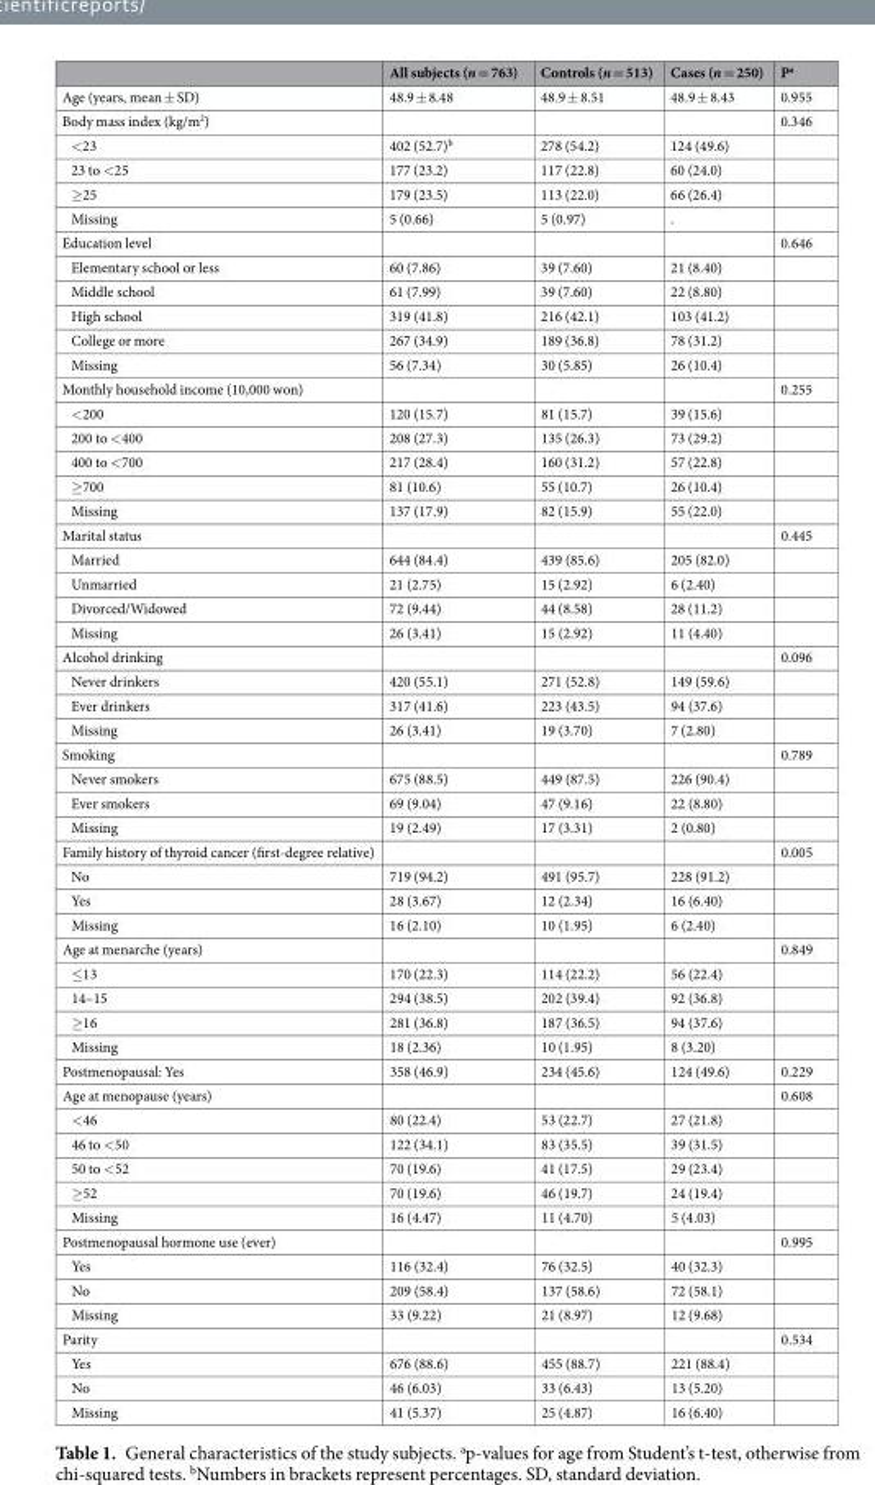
<table><thead><tr><td></td><td>All subjects (n = 763)</td><td>Controls (n = 513)</td><td>Cases (n = 250)</td><td>P<sup>a</sup></td></tr></thead><tbody><tr><td>Age (years, mean ± SD)</td><td>48.9 ± 8.48</td><td>48.9 ± 8.51</td><td>48.9 ± 8.43</td><td>0.955</td></tr><tr><td>Body mass index (kg/m<sup>2</sup>)</td><td></td><td></td><td></td><td>0.346</td></tr><tr><td>&lt;23</td><td>402 (52.7)<sup>b</sup></td><td>278 (54.2)</td><td>124 (49.6)</td><td></td></tr><tr><td>23 to &lt;25</td><td>177 (23.2)</td><td>117 (22.8)</td><td>60 (24.0)</td><td></td></tr><tr><td>≥25</td><td>179 (23.5)</td><td>113 (22.0)</td><td>66 (26.4)</td><td></td></tr><tr><td>Missing</td><td>5 (0.66)</td><td>5 (0.97)</td><td>.</td><td></td></tr><tr><td>Education level</td><td></td><td></td><td></td><td>0.646</td></tr><tr><td>Elementary school or less</td><td>60 (7.86)</td><td>39 (7.60)</td><td>21 (8.40)</td><td></td></tr><tr><td>Middle school</td><td>61 (7.99)</td><td>39 (7.60)</td><td>22 (8.80)</td><td></td></tr><tr><td>High school</td><td>319 (41.8)</td><td>216 (42.1)</td><td>103 (41.2)</td><td></td></tr><tr><td>College or more</td><td>267 (34.9)</td><td>189 (36.8)</td><td>78 (31.2)</td><td></td></tr><tr><td>Missing</td><td>56 (7.34)</td><td>30 (5.85)</td><td>26 (10.4)</td><td></td></tr><tr><td>Monthly household income (10,000 won)</td><td></td><td></td><td></td><td>0.255</td></tr><tr><td>&lt;200</td><td>120 (15.7)</td><td>81 (15.7)</td><td>39 (15.6)</td><td></td></tr><tr><td>200 to &lt;400</td><td>208 (27.3)</td><td>135 (26.3)</td><td>73 (29.2)</td><td></td></tr><tr><td>400 to &lt;700</td><td>217 (28.4)</td><td>160 (31.2)</td><td>57 (22.8)</td><td></td></tr><tr><td>≥700</td><td>81 (10.6)</td><td>55 (10.7)</td><td>26 (10.4)</td><td></td></tr><tr><td>Missing</td><td>137 (17.9)</td><td>82 (15.9)</td><td>55 (22.0)</td><td></td></tr><tr><td>Marital status</td><td></td><td></td><td></td><td>0.445</td></tr><tr><td>Married</td><td>644 (84.4)</td><td>439 (85.6)</td><td>205 (82.0)</td><td></td></tr><tr><td>Unmarried</td><td>21 (2.75)</td><td>15 (2.92)</td><td>6 (2.40)</td><td></td></tr><tr><td>Divorced/Widowed</td><td>72 (9.44)</td><td>44 (8.58)</td><td>28 (11.2)</td><td></td></tr><tr><td>Missing</td><td>26 (3.41)</td><td>15 (2.92)</td><td>11 (4.40)</td><td></td></tr><tr><td>Alcohol drinking</td><td></td><td></td><td></td><td>0.096</td></tr><tr><td>Never drinkers</td><td>420 (55.1)</td><td>271 (52.8)</td><td>149 (59.6)</td><td></td></tr><tr><td>Ever drinkers</td><td>317 (41.6)</td><td>223 (43.5)</td><td>94 (37.6)</td><td></td></tr><tr><td>Missing</td><td>26 (3.41)</td><td>19 (3.70)</td><td>7 (2.80)</td><td></td></tr><tr><td>Smoking</td><td></td><td></td><td></td><td>0.789</td></tr><tr><td>Never smokers</td><td>675 (88.5)</td><td>449 (87.5)</td><td>226 (90.4)</td><td></td></tr><tr><td>Ever smokers</td><td>69 (9.04)</td><td>47 (9.16)</td><td>22 (8.80)</td><td></td></tr><tr><td>Missing</td><td>19 (2.49)</td><td>17 (3.31)</td><td>2 (0.80)</td><td></td></tr><tr><td>Family history of thyroid cancer (first-degree relative)</td><td></td><td></td><td></td><td>0.005</td></tr><tr><td>No</td><td>719 (94.2)</td><td>491 (95.7)</td><td>228 (91.2)</td><td></td></tr><tr><td>Yes</td><td>28 (3.67)</td><td>12 (2.34)</td><td>16 (6.40)</td><td></td></tr><tr><td>Missing</td><td>16 (2.10)</td><td>10 (1.95)</td><td>6 (2.40)</td><td></td></tr><tr><td>Age at menarche (years)</td><td></td><td></td><td></td><td>0.849</td></tr><tr><td>≤13</td><td>170 (22.3)</td><td>114 (22.2)</td><td>56 (22.4)</td><td></td></tr><tr><td>14–15</td><td>294 (38.5)</td><td>202 (39.4)</td><td>92 (36.8)</td><td></td></tr><tr><td>≥16</td><td>281 (36.8)</td><td>187 (36.5)</td><td>94 (37.6)</td><td></td></tr><tr><td>Missing</td><td>18 (2.36)</td><td>10 (1.95)</td><td>8 (3.20)</td><td></td></tr><tr><td>Postmenopausal: Yes</td><td>358 (46.9)</td><td>234 (45.6)</td><td>124 (49.6)</td><td>0.229</td></tr><tr><td>Age at menopause (years)</td><td></td><td></td><td></td><td>0.608</td></tr><tr><td>&lt;46</td><td>80 (22.4)</td><td>53 (22.7)</td><td>27 (21.8)</td><td></td></tr><tr><td>46 to &lt;50</td><td>122 (34.1)</td><td>83 (35.5)</td><td>39 (31.5)</td><td></td></tr><tr><td>50 to &lt;52</td><td>70 (19.6)</td><td>41 (17.5)</td><td>29 (23.4)</td><td></td></tr><tr><td>≥52</td><td>70 (19.6)</td><td>46 (19.7)</td><td>24 (19.4)</td><td></td></tr><tr><td>Missing</td><td>16 (4.47)</td><td>11 (4.70)</td><td>5 (4.03)</td><td></td></tr><tr><td>Postmenopausal hormone use (ever)</td><td></td><td></td><td></td><td>0.995</td></tr><tr><td>Yes</td><td>116 (32.4)</td><td>76 (32.5)</td><td>40 (32.3)</td><td></td></tr><tr><td>No</td><td>209 (58.4)</td><td>137 (58.6)</td><td>72 (58.1)</td><td></td></tr><tr><td>Missing</td><td>33 (9.22)</td><td>21 (8.97)</td><td>12 (9.68)</td><td></td></tr><tr><td>Parity</td><td></td><td></td><td></td><td>0.534</td></tr><tr><td>Yes</td><td>676 (88.6)</td><td>455 (88.7)</td><td>221 (88.4)</td><td></td></tr><tr><td>No</td><td>46 (6.03)</td><td>33 (6.43)</td><td>13 (5.20)</td><td></td></tr><tr><td>Missing</td><td>41 (5.37)</td><td>25 (4.87)</td><td>16 (6.40)</td><td></td></tr></tbody></table>